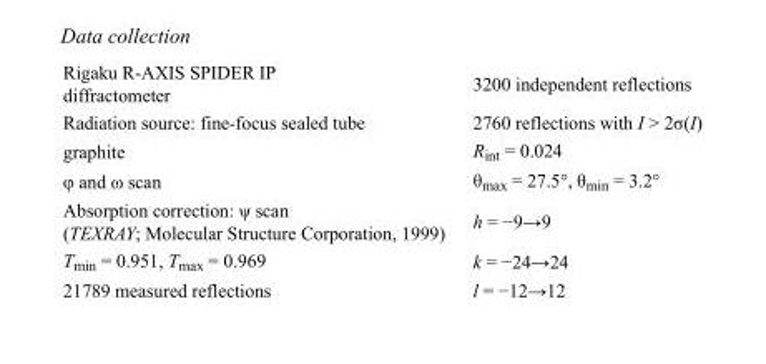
<table><tbody><tr><td>Rigaku R-AXIS SPIDER IP diffractometer</td><td>3200 independent reflections</td></tr><tr><td>Radiation source: fine-focus sealed tube</td><td>2760 reflections with I &gt; 2σ(I)</td></tr><tr><td>graphite</td><td>R<sub>int</sub> = 0.024</td></tr><tr><td>φ and ω scan</td><td>θ<sub>max</sub> = 27.5°, θ<sub>min</sub> = 3.2°</td></tr><tr><td>Absorption correction: ψ scan (TEXRAY; Molecular Structure Corporation, 1999)</td><td>h = −9→9</td></tr><tr><td>T<sub>min</sub> = 0.951, T<sub>max</sub> = 0.969</td><td>k = −24→24</td></tr><tr><td>21789 measured reflections</td><td>l = −12→12</td></tr></tbody></table>